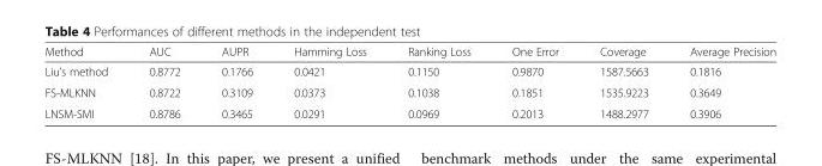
<table><thead><tr><td>Method</td><td>AUC</td><td>AUPR</td><td>Hamming Loss</td><td>Ranking Loss</td><td>One Error</td><td>Coverage</td><td>Average Precision</td></tr></thead><tbody><tr><td>Liu’s method</td><td>0.8772</td><td>0.1766</td><td>0.0421</td><td>0.1150</td><td>0.9870</td><td>1587.5663</td><td>0.1816</td></tr><tr><td>FS-MLKNN</td><td>0.8722</td><td>0.3109</td><td>0.0373</td><td>0.1038</td><td>0.1851</td><td>1535.9223</td><td>0.3649</td></tr><tr><td>LNSM-SMI</td><td>0.8786</td><td>0.3465</td><td>0.0291</td><td>0.0969</td><td>0.2013</td><td>1488.2977</td><td>0.3906</td></tr></tbody></table>